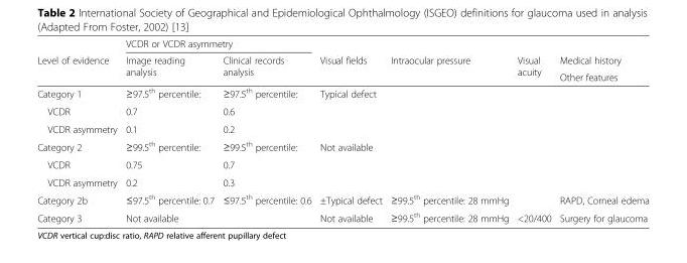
<table><thead><tr><td rowspan="3">Level of evidence</td><td colspan="2">VCDR or VCDR asymmetry</td><td rowspan="3">Visual fields</td><td rowspan="3">Intraocular pressure</td><td rowspan="3">Visual acuity</td><td rowspan="3">Medical history Other features</td></tr><tr><td rowspan="2">Image reading analysis</td><td rowspan="2">Clinical records analysis</td></tr><tr></tr></thead><tbody><tr><td>Category 1</td><td>≥97.5<sup>th</sup> percentile:</td><td>≥97.5<sup>th</sup> percentile:</td><td rowspan="3">Typical defect</td><td rowspan="3"></td><td rowspan="3"></td><td rowspan="3"></td></tr><tr><td>VCDR</td><td>0.7</td><td>0.6</td></tr><tr><td>VCDR asymmetry</td><td>0.1</td><td>0.2</td></tr><tr><td>Category 2</td><td>≥99.5<sup>th</sup> percentile:</td><td>≥99.5<sup>th</sup> percentile:</td><td rowspan="3">Not available</td><td rowspan="3"></td><td rowspan="3"></td><td rowspan="3"></td></tr><tr><td>VCDR</td><td>0.75</td><td>0.7</td></tr><tr><td>VCDR asymmetry</td><td>0.2</td><td>0.3</td></tr><tr><td>Category 2b</td><td>≤97.5<sup>th</sup> percentile: 0.7</td><td>≤97.5<sup>th</sup> percentile: 0.6</td><td>±Typical defect</td><td>≥99.5<sup>th</sup> percentile: 28 mmHg</td><td></td><td>RAPD, Corneal edema</td></tr><tr><td>Category 3</td><td>Not available</td><td></td><td>Not available</td><td>≥99.5<sup>th</sup> percentile: 28 mmHg</td><td>&lt;20/400</td><td>Surgery for glaucoma</td></tr></tbody></table>